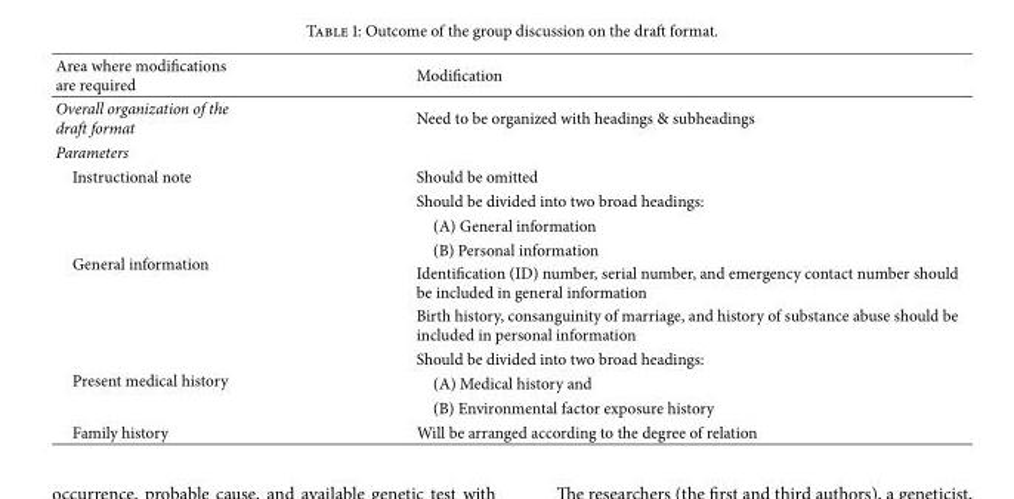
<table><thead><tr><td>Area where modifications are required</td><td>Modification</td></tr></thead><tbody><tr><td>Overall organization of the draft format</td><td>Need to be organized with headings &amp; subheadings</td></tr><tr><td colspan="2">Parameters</td></tr><tr><td>Instructional note</td><td>Should be omitted</td></tr><tr><td rowspan="5">General information</td><td>Should be divided into two broad headings:</td></tr><tr><td>(A) General information</td></tr><tr><td>(B) Personal information</td></tr><tr><td>Identification (ID) number, serial number, and emergency contact number should be included in general information</td></tr><tr><td>Birth history, consanguinity of marriage, and history of substance abuse should be included in personal information</td></tr><tr><td rowspan="3">Present medical history</td><td>Should be divided into two broad headings:</td></tr><tr><td>(A) Medical history and</td></tr><tr><td>(B) Environmental factor exposure history</td></tr><tr><td>Family history</td><td>Will be arranged according to the degree of relation</td></tr></tbody></table>